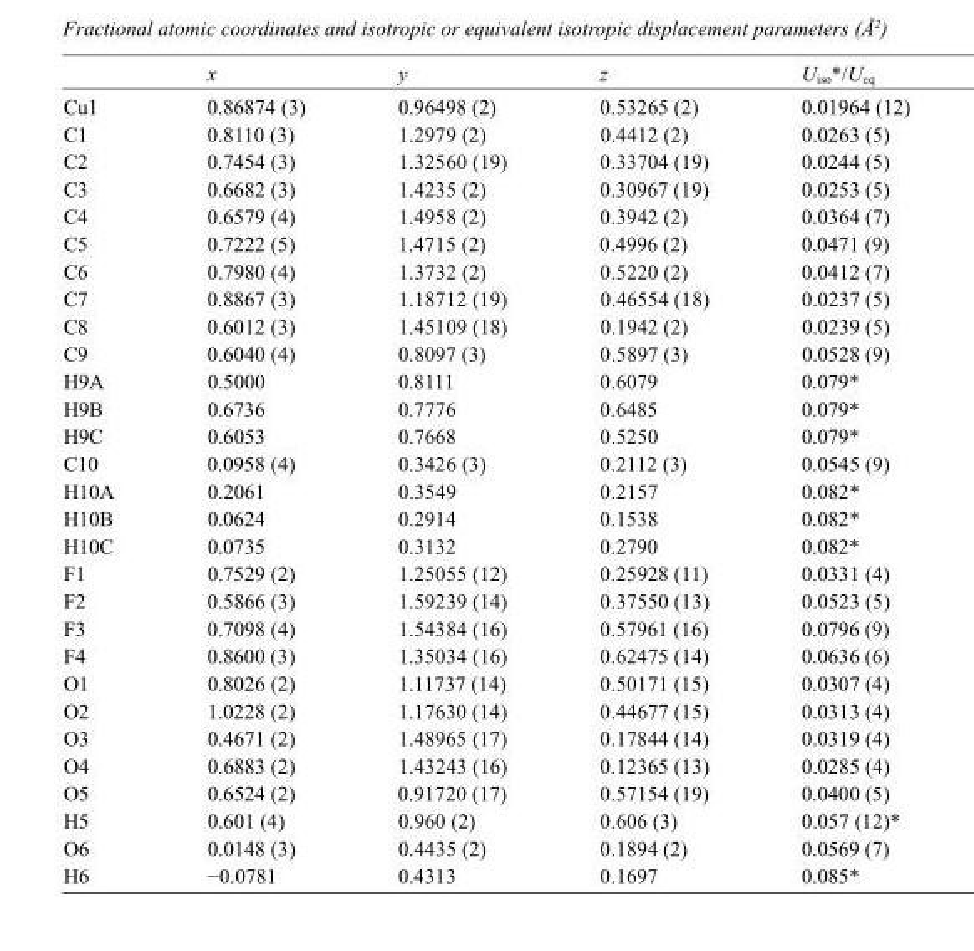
<table><thead><tr><td></td><td>x</td><td>y</td><td>z</td><td>U<sub>iso</sub>*/U<sub>eq</sub></td></tr></thead><tbody><tr><td>Cu1</td><td>0.86874 (3)</td><td>0.96498 (2)</td><td>0.53265 (2)</td><td>0.01964 (12)</td></tr><tr><td>C1</td><td>0.8110 (3)</td><td>1.2979 (2)</td><td>0.4412 (2)</td><td>0.0263 (5)</td></tr><tr><td>C2</td><td>0.7454 (3)</td><td>1.32560 (19)</td><td>0.33704 (19)</td><td>0.0244 (5)</td></tr><tr><td>C3</td><td>0.6682 (3)</td><td>1.4235 (2)</td><td>0.30967 (19)</td><td>0.0253 (5)</td></tr><tr><td>C4</td><td>0.6579 (4)</td><td>1.4958 (2)</td><td>0.3942 (2)</td><td>0.0364 (7)</td></tr><tr><td>C5</td><td>0.7222 (5)</td><td>1.4715 (2)</td><td>0.4996 (2)</td><td>0.0471 (9)</td></tr><tr><td>C6</td><td>0.7980 (4)</td><td>1.3732 (2)</td><td>0.5220 (2)</td><td>0.0412 (7)</td></tr><tr><td>C7</td><td>0.8867 (3)</td><td>1.18712 (19)</td><td>0.46554 (18)</td><td>0.0237 (5)</td></tr><tr><td>C8</td><td>0.6012 (3)</td><td>1.45109 (18)</td><td>0.1942 (2)</td><td>0.0239 (5)</td></tr><tr><td>C9</td><td>0.6040 (4)</td><td>0.8097 (3)</td><td>0.5897 (3)</td><td>0.0528 (9)</td></tr><tr><td>H9A</td><td>0.5000</td><td>0.8111</td><td>0.6079</td><td>0.079*</td></tr><tr><td>H9B</td><td>0.6736</td><td>0.7776</td><td>0.6485</td><td>0.079*</td></tr><tr><td>H9C</td><td>0.6053</td><td>0.7668</td><td>0.5250</td><td>0.079*</td></tr><tr><td>C10</td><td>0.0958 (4)</td><td>0.3426 (3)</td><td>0.2112 (3)</td><td>0.0545 (9)</td></tr><tr><td>H10A</td><td>0.2061</td><td>0.3549</td><td>0.2157</td><td>0.082*</td></tr><tr><td>H10B</td><td>0.0624</td><td>0.2914</td><td>0.1538</td><td>0.082*</td></tr><tr><td>H10C</td><td>0.0735</td><td>0.3132</td><td>0.2790</td><td>0.082*</td></tr><tr><td>F1</td><td>0.7529 (2)</td><td>1.25055 (12)</td><td>0.25928 (11)</td><td>0.0331 (4)</td></tr><tr><td>F2</td><td>0.5866 (3)</td><td>1.59239 (14)</td><td>0.37550 (13)</td><td>0.0523 (5)</td></tr><tr><td>F3</td><td>0.7098 (4)</td><td>1.54384 (16)</td><td>0.57961 (16)</td><td>0.0796 (9)</td></tr><tr><td>F4</td><td>0.8600 (3)</td><td>1.35034 (16)</td><td>0.62475 (14)</td><td>0.0636 (6)</td></tr><tr><td>O1</td><td>0.8026 (2)</td><td>1.11737 (14)</td><td>0.50171 (15)</td><td>0.0307 (4)</td></tr><tr><td>O2</td><td>1.0228 (2)</td><td>1.17630 (14)</td><td>0.44677 (15)</td><td>0.0313 (4)</td></tr><tr><td>O3</td><td>0.4671 (2)</td><td>1.48965 (17)</td><td>0.17844 (14)</td><td>0.0319 (4)</td></tr><tr><td>O4</td><td>0.6883 (2)</td><td>1.43243 (16)</td><td>0.12365 (13)</td><td>0.0285 (4)</td></tr><tr><td>O5</td><td>0.6524 (2)</td><td>0.91720 (17)</td><td>0.57154 (19)</td><td>0.0400 (5)</td></tr><tr><td>H5</td><td>0.601 (4)</td><td>0.960 (2)</td><td>0.606 (3)</td><td>0.057 (12)*</td></tr><tr><td>O6</td><td>0.0148 (3)</td><td>0.4435 (2)</td><td>0.1894 (2)</td><td>0.0569 (7)</td></tr><tr><td>H6</td><td>−0.0781</td><td>0.4313</td><td>0.1697</td><td>0.085*</td></tr></tbody></table>